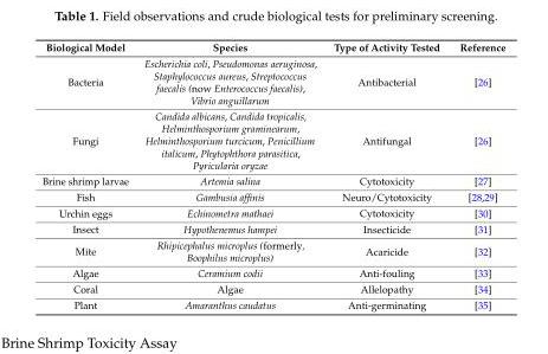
<table><thead><tr><td>Biological Model</td><td>Species</td><td>Type of Activity Tested</td><td>Reference</td></tr></thead><tbody><tr><td>Bacteria</td><td>Escherichia coli, Pseudomonas aeruginosa, Staphylococcus aureus, Streptococcus faecalis (now Enterococcus faecalis), Vibrio anguillarum</td><td>Antibacterial</td><td>[26]</td></tr><tr><td>Fungi</td><td>Candida albicans, Candida tropicalis, Helminthosporium graminearum, Helminthosporium turcicum, Penicillium italicum, Phytophthora parasitica, Pyricularia oryzae</td><td>Antifungal</td><td>[26]</td></tr><tr><td>Brine shrimp larvae</td><td>Artemia salina</td><td>Cytotoxicity</td><td>[27]</td></tr><tr><td>Fish</td><td>Gambusia affinis</td><td>Neuro/Cytotoxicity</td><td>[28,29]</td></tr><tr><td>Urchin eggs</td><td>Echinometra mathaei</td><td>Cytotoxicity</td><td>[30]</td></tr><tr><td>Insect</td><td>Hypothenemus hampei</td><td>Insecticide</td><td>[31]</td></tr><tr><td>Mite</td><td>Rhipicephalus microplus (formerly, Boophilus microplus)</td><td>Acaricide</td><td>[32]</td></tr><tr><td>Algae</td><td>Ceramium codii</td><td>Anti-fouling</td><td>[33]</td></tr><tr><td>Coral</td><td>Algae</td><td>Allelopathy</td><td>[34]</td></tr><tr><td>Plant</td><td>Amaranthus caudatus</td><td>Anti-germinating</td><td>[35]</td></tr></tbody></table>